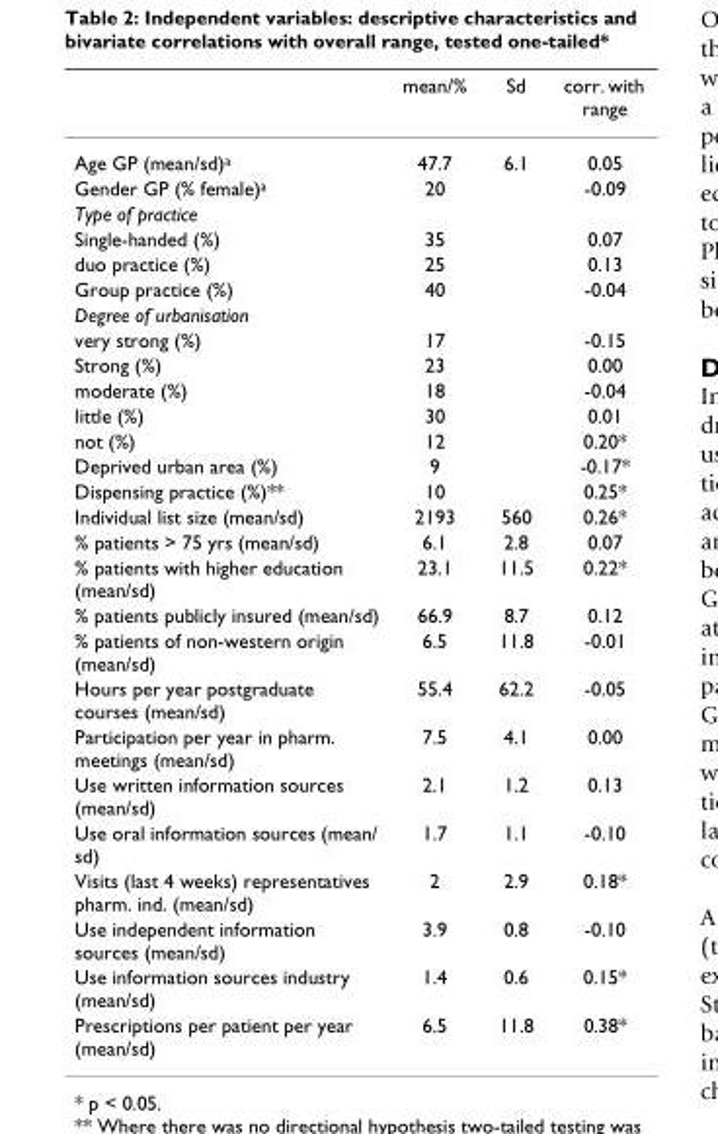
<table><thead><tr><td></td><td>mean/%</td><td>Sd</td><td>corr. with range</td></tr></thead><tbody><tr><td>Age GP (mean/sd)<sup>a</sup></td><td>47.7</td><td>6.1</td><td>0.05</td></tr><tr><td>Gender GP (% female)<sup>a</sup></td><td>20</td><td></td><td>-0.09</td></tr><tr><td colspan="4">Type of practice</td></tr><tr><td>Single-handed (%)</td><td>35</td><td></td><td>0.07</td></tr><tr><td>duo practice (%)</td><td>25</td><td></td><td>0.13</td></tr><tr><td>Group practice (%)</td><td>40</td><td></td><td>-0.04</td></tr><tr><td colspan="4">Degree of urbanisation</td></tr><tr><td>very strong (%)</td><td>17</td><td></td><td>-0.15</td></tr><tr><td>Strong (%)</td><td>23</td><td></td><td>0.00</td></tr><tr><td>moderate (%)</td><td>18</td><td></td><td>-0.04</td></tr><tr><td>little (%)</td><td>30</td><td></td><td>0.01</td></tr><tr><td>not (%)</td><td>12</td><td></td><td>0.20*</td></tr><tr><td>Deprived urban area (%)</td><td>9</td><td></td><td>-0.17*</td></tr><tr><td>Dispensing practice (%)**</td><td>10</td><td></td><td>0.25*</td></tr><tr><td>Individual list size (mean/sd)</td><td>2193</td><td>560</td><td>0.26*</td></tr><tr><td>% patients &gt; 75 yrs (mean/sd)</td><td>6.1</td><td>2.8</td><td>0.07</td></tr><tr><td>% patients with higher education (mean/sd)</td><td>23.1</td><td>11.5</td><td>0.22*</td></tr><tr><td>% patients publicly insured (mean/sd)</td><td>66.9</td><td>8.7</td><td>0.12</td></tr><tr><td>% patients of non-western origin (mean/sd)</td><td>6.5</td><td>11.8</td><td>-0.01</td></tr><tr><td>Hours per year postgraduate courses (mean/sd)</td><td>55.4</td><td>62.2</td><td>-0.05</td></tr><tr><td>Participation per year in pharm. meetings (mean/sd)</td><td>7.5</td><td>4.1</td><td>0.00</td></tr><tr><td>Use written information sources (mean/sd)</td><td>2.1</td><td>1.2</td><td>0.13</td></tr><tr><td>Use oral information sources (mean/ sd)</td><td>1.7</td><td>1.1</td><td>-0.10</td></tr><tr><td>Visits (last 4 weeks) representatives pharm. ind. (mean/sd)</td><td>2</td><td>2.9</td><td>0.18*</td></tr><tr><td>Use independent information sources (mean/sd)</td><td>3.9</td><td>0.8</td><td>-0.10</td></tr><tr><td>Use information sources industry (mean/sd)</td><td>1.4</td><td>0.6</td><td>0.15*</td></tr><tr><td>Prescriptions per patient per year (mean/sd)</td><td>6.5</td><td>11.8</td><td>0.38*</td></tr></tbody></table>